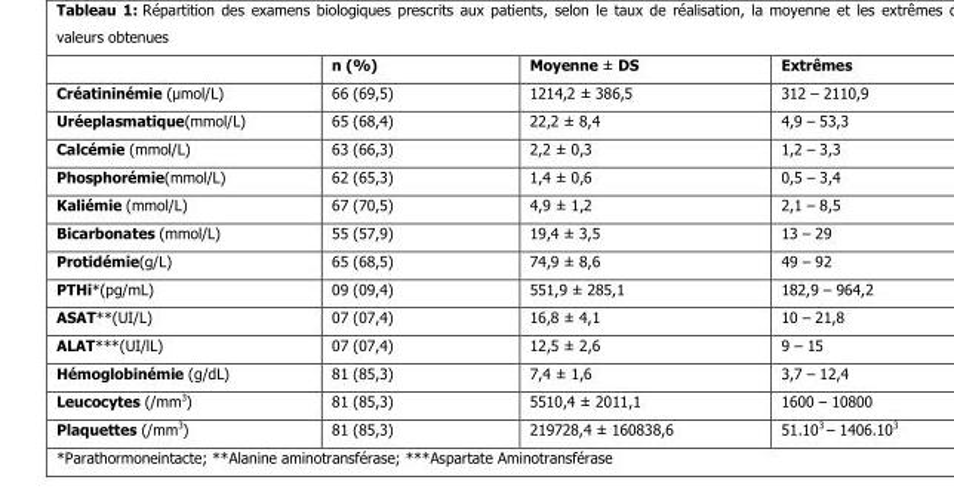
<table><thead><tr><td></td><td>n (%)</td><td>Moyenne ± DS</td><td>Extrêmes</td></tr></thead><tbody><tr><td>Créatininémie (µmol/L)</td><td>66 (69,5)</td><td>1214,2 ± 386,5</td><td>312 – 2110,9</td></tr><tr><td>Uréeplasmatique(mmol/L)</td><td>65 (68,4)</td><td>22,2 ± 8,4</td><td>4,9 – 53,3</td></tr><tr><td>Calcémie (mmol/L)</td><td>63 (66,3)</td><td>2,2 ± 0,3</td><td>1,2 – 3,3</td></tr><tr><td>Phosphorémie(mmol/L)</td><td>62 (65,3)</td><td>1,4 ± 0,6</td><td>0,5 – 3,4</td></tr><tr><td>Kaliémie (mmol/L)</td><td>67 (70,5)</td><td>4,9 ± 1,2</td><td>2,1 – 8,5</td></tr><tr><td>Bicarbonates (mmol/L)</td><td>55 (57,9)</td><td>19,4 ± 3,5</td><td>13 – 29</td></tr><tr><td>Protidémie(g/L)</td><td>65 (68,5)</td><td>74,9 ± 8,6</td><td>49 – 92</td></tr><tr><td>PTHi*(pg/mL)</td><td>09 (09,4)</td><td>551,9 ± 285,1</td><td>182,9 – 964,2</td></tr><tr><td>ASAT**(UI/L)</td><td>07 (07,4)</td><td>16,8 ± 4,1</td><td>10 – 21,8</td></tr><tr><td>ALAT***(UI/lL)</td><td>07 (07,4)</td><td>12,5 ± 2,6</td><td>9 – 15</td></tr><tr><td>Hémoglobinémie (g/dL)</td><td>81 (85,3)</td><td>7,4 ± 1,6</td><td>3,7 – 12,4</td></tr><tr><td>Leucocytes (/mm<sup>3</sup>)</td><td>81 (85,3)</td><td>5510,4 ± 2011,1</td><td>1600 – 10800</td></tr><tr><td>Plaquettes (/mm<sup>3</sup>)</td><td>81 (85,3)</td><td>219728,4 ± 160838,6</td><td>51.10<sup>3</sup> – 1406.10<sup>3</sup></td></tr></tbody></table>